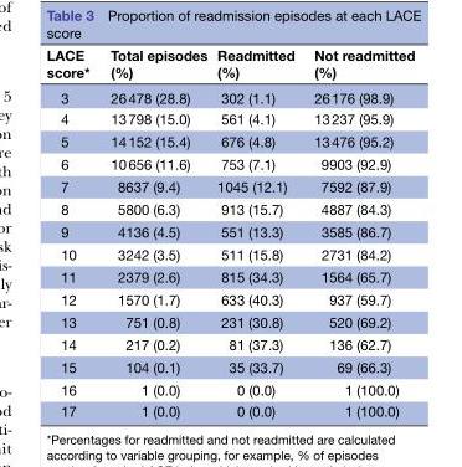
<table><thead><tr><td>LACE score*</td><td>Total episodes (%)</td><td>Readmitted (%)</td><td>Not readmitted (%)</td></tr></thead><tbody><tr><td>3</td><td>26 478 (28.8)</td><td>302 (1.1)</td><td>26 176 (98.9)</td></tr><tr><td>4</td><td>13 798 (15.0)</td><td>561 (4.1)</td><td>13 237 (95.9)</td></tr><tr><td>5</td><td>14 152 (15.4)</td><td>676 (4.8)</td><td>13 476 (95.2)</td></tr><tr><td>6</td><td>10 656 (11.6)</td><td>753 (7.1)</td><td>9903 (92.9)</td></tr><tr><td>7</td><td>8637 (9.4)</td><td>1045 (12.1)</td><td>7592 (87.9)</td></tr><tr><td>8</td><td>5800 (6.3)</td><td>913 (15.7)</td><td>4887 (84.3)</td></tr><tr><td>9</td><td>4136 (4.5)</td><td>551 (13.3)</td><td>3585 (86.7)</td></tr><tr><td>10</td><td>3242 (3.5)</td><td>511 (15.8)</td><td>2731 (84.2)</td></tr><tr><td>11</td><td>2379 (2.6)</td><td>815 (34.3)</td><td>1564 (65.7)</td></tr><tr><td>12</td><td>1570 (1.7)</td><td>633 (40.3)</td><td>937 (59.7)</td></tr><tr><td>13</td><td>751 (0.8)</td><td>231 (30.8)</td><td>520 (69.2)</td></tr><tr><td>14</td><td>217 (0.2)</td><td>81 (37.3)</td><td>136 (62.7)</td></tr><tr><td>15</td><td>104 (0.1)</td><td>35 (33.7)</td><td>69 (66.3)</td></tr><tr><td>16</td><td>1 (0.0)</td><td>0 (0.0)</td><td>1 (100.0)</td></tr><tr><td>17</td><td>1 (0.0)</td><td>0 (0.0)</td><td>1 (100.0)</td></tr></tbody></table>